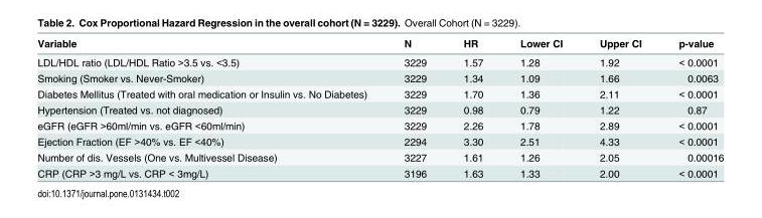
<table><thead><tr><td>Variable</td><td>N</td><td>HR</td><td>Lower CI</td><td>Upper CI</td><td>p-value</td></tr></thead><tbody><tr><td>LDL/HDL ratio (LDL/HDL Ratio &gt;3.5 vs. &lt;3.5)</td><td>3229</td><td>1.57</td><td>1.28</td><td>1.92</td><td>&lt; 0.0001</td></tr><tr><td>Smoking (Smoker vs. Never-Smoker)</td><td>3229</td><td>1.34</td><td>1.09</td><td>1.66</td><td>0.0063</td></tr><tr><td>Diabetes Mellitus (Treated with oral medication or Insulin vs. No Diabetes)</td><td>3229</td><td>1.70</td><td>1.36</td><td>2.11</td><td>&lt; 0.0001</td></tr><tr><td>Hypertension (Treated vs. not diagnosed)</td><td>3229</td><td>0.98</td><td>0.79</td><td>1.22</td><td>0.87</td></tr><tr><td>eGFR (eGFR &gt;60ml/min vs. eGFR &lt;60ml/min)</td><td>3229</td><td>2.26</td><td>1.78</td><td>2.89</td><td>&lt; 0.0001</td></tr><tr><td>Ejection Fraction (EF &gt;40% vs. EF &lt;40%)</td><td>2294</td><td>3.30</td><td>2.51</td><td>4.33</td><td>&lt; 0.0001</td></tr><tr><td>Number of dis. Vessels (One vs. Multivessel Disease)</td><td>3227</td><td>1.61</td><td>1.26</td><td>2.05</td><td>0.00016</td></tr><tr><td>CRP (CRP &gt;3 mg/L vs. CRP &lt; 3mg/L)</td><td>3196</td><td>1.63</td><td>1.33</td><td>2.00</td><td>&lt; 0.0001</td></tr></tbody></table>